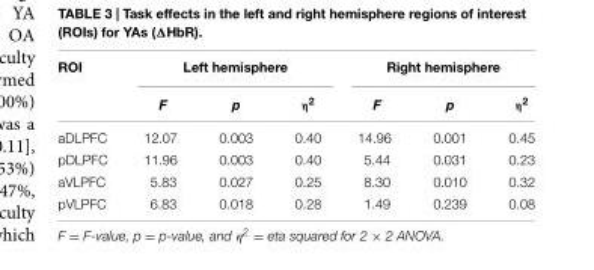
<table><thead><tr><td rowspan="2">ROI</td><td colspan="3">Left hemisphere</td><td colspan="3">Right hemisphere</td></tr><tr><td>F</td><td>p</td><td>η<sup>2</sup></td><td>F</td><td>p</td><td>η<sup>2</sup></td></tr></thead><tbody><tr><td>aDLPFC</td><td>12.07</td><td>0.003</td><td>0.40</td><td>14.96</td><td>0.001</td><td>0.45</td></tr><tr><td>pDLPFC</td><td>11.96</td><td>0.003</td><td>0.40</td><td>5.44</td><td>0.031</td><td>0.23</td></tr><tr><td>aVLPFC</td><td>5.83</td><td>0.027</td><td>0.25</td><td>8.30</td><td>0.010</td><td>0.32</td></tr><tr><td>pVLPFC</td><td>6.83</td><td>0.018</td><td>0.28</td><td>1.49</td><td>0.239</td><td>0.08</td></tr></tbody></table>